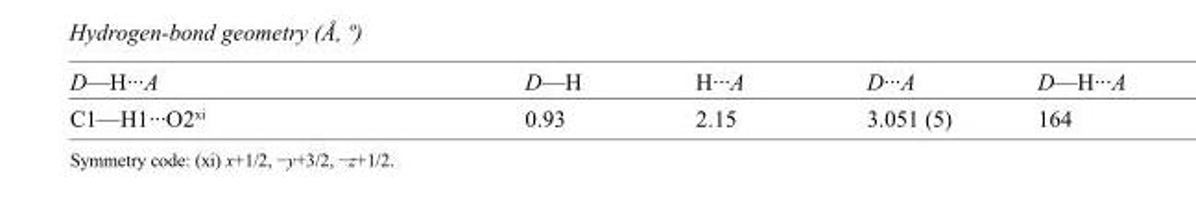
<table><tbody><tr><td>D—H···A</td><td>D—H</td><td>H···A</td><td>D···A</td><td>D—H···A</td></tr><tr><td>C1—H1···O2<sup>xi</sup></td><td>0.93</td><td>2.15</td><td>3.051 (5)</td><td>164</td></tr></tbody></table>